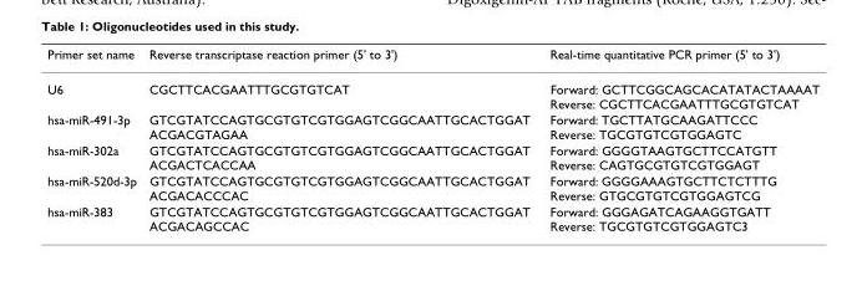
<table><thead><tr><td>Primer set name</td><td>Reverse transcriptase reaction primer (5&#x27; to 3&#x27;)</td><td>Real-time quantitative PCR primer (5&#x27; to 3&#x27;)</td></tr></thead><tbody><tr><td>U6</td><td>CGCTTCACGAATTTGCGTGTCAT</td><td>Forward: GCTTCGGCAGCACATATACTAAAAT Reverse: CGCTTCACGAATTTGCGTGTCAT</td></tr><tr><td>hsa-miR-491-3p</td><td>GTCGTATCCAGTGCGTGTCGTGGAGTCGGCAATTGCACTGGAT ACGACGTAGAA</td><td>Forward: TGCTTATGCAAGATTCCC Reverse: TGCGTGTCGTGGAGTC</td></tr><tr><td>hsa-miR-302a</td><td>GTCGTATCCAGTGCGTGTCGTGGAGTCGGCAATTGCACTGGAT ACGACTCACCAA</td><td>Forward: GGGGTAAGTGCTTCCATGTT Reverse: CAGTGCGTGTCGTGGAGT</td></tr><tr><td>hsa-miR-520d-3p</td><td>GTCGTATCCAGTGCGTGTCGTGGAGTCGGCAATTGCACTGGAT ACGACACCCAC</td><td>Forward: GGGGAAAGTGCTTCTCTTTG Reverse: GTGCGTGTCGTGGAGTCG</td></tr><tr><td>hsa-miR-383</td><td>GTCGTATCCAGTGCGTGTCGTGGAGTCGGCAATTGCACTGGAT ACGACAGCCAC</td><td>Forward: GGGAGATCAGAAGGTGATT Reverse: TGCGTGTCGTGGAGTC3</td></tr></tbody></table>